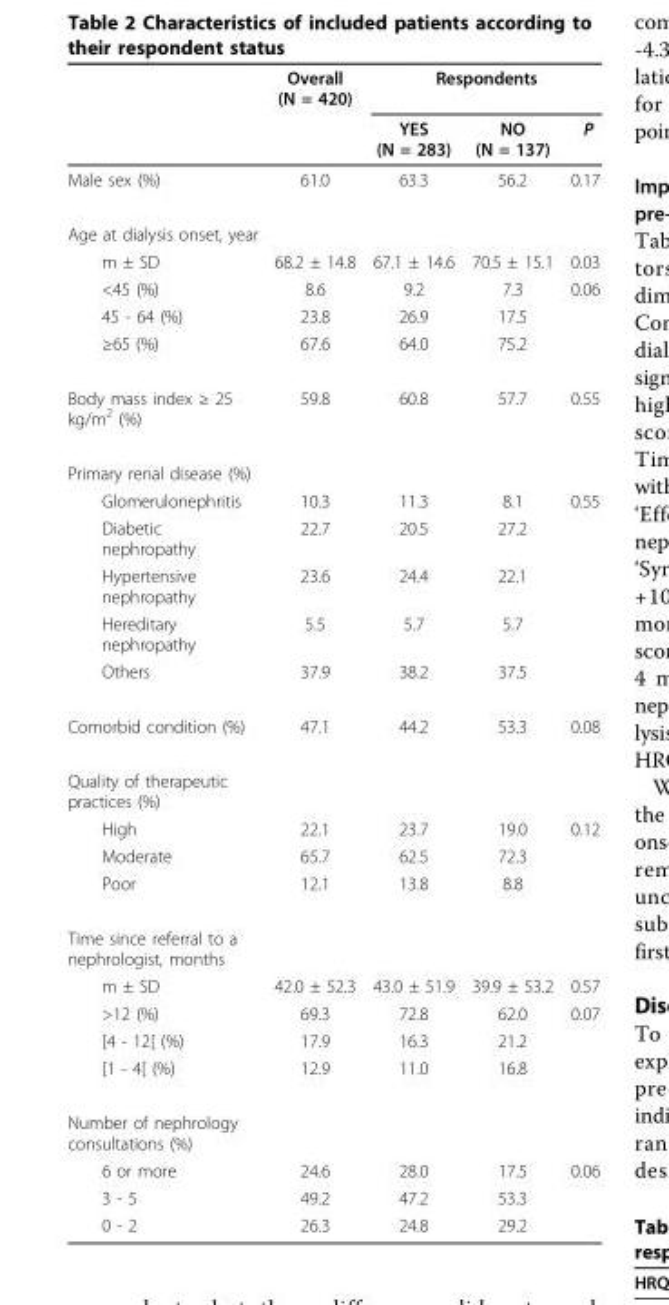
<table><thead><tr><td rowspan="2"></td><td rowspan="2">Overall (N = 420)</td><td colspan="3">Respondents</td></tr><tr><td>YES (N = 283)</td><td>NO (N = 137)</td><td>P</td></tr></thead><tbody><tr><td>Male sex (%)</td><td>61.0</td><td>63.3</td><td>56.2</td><td>0.17</td></tr><tr><td colspan="5">Age at dialysis onset, year</td></tr><tr><td>m ± SD</td><td>68.2 ± 14.8</td><td>67.1 ± 14.6</td><td>70.5 ± 15.1</td><td>0.03</td></tr><tr><td>&lt;45 (%)</td><td>8.6</td><td>9.2</td><td>7.3</td><td>0.06</td></tr><tr><td>45 - 64 (%)</td><td>23.8</td><td>26.9</td><td>17.5</td><td></td></tr><tr><td>≥65 (%)</td><td>67.6</td><td>64.0</td><td>75.2</td><td></td></tr><tr><td>Body mass index ≥ 25 kg/m<sup>2</sup> (%)</td><td>59.8</td><td>60.8</td><td>57.7</td><td>0.55</td></tr><tr><td colspan="5">Primary renal disease (%)</td></tr><tr><td>Glomerulonephritis</td><td>10.3</td><td>11.3</td><td>8.1</td><td>0.55</td></tr><tr><td>Diabetic nephropathy</td><td>22.7</td><td>20.5</td><td>27.2</td><td></td></tr><tr><td>Hypertensive nephropathy</td><td>23.6</td><td>24.4</td><td>22.1</td><td></td></tr><tr><td>Hereditary nephropathy</td><td>5.5</td><td>5.7</td><td>5.7</td><td></td></tr><tr><td>Others</td><td>37.9</td><td>38.2</td><td>37.5</td><td></td></tr><tr><td>Comorbid condition (%)</td><td>47.1</td><td>44.2</td><td>53.3</td><td>0.08</td></tr><tr><td colspan="5">Quality of therapeutic practices (%)</td></tr><tr><td>High</td><td>22.1</td><td>23.7</td><td>19.0</td><td>0.12</td></tr><tr><td>Moderate</td><td>65.7</td><td>62.5</td><td>72.3</td><td></td></tr><tr><td>Poor</td><td>12.1</td><td>13.8</td><td>8.8</td><td></td></tr><tr><td colspan="5">Time since referral to a nephrologist, months</td></tr><tr><td>m ± SD</td><td>42.0 ± 52.3</td><td>43.0 ± 51.9</td><td>39.9 ± 53.2</td><td>0.57</td></tr><tr><td>&gt;12 (%)</td><td>69.3</td><td>72.8</td><td>62.0</td><td>0.07</td></tr><tr><td>[4 - 12[ (%)</td><td>17.9</td><td>16.3</td><td>21.2</td><td></td></tr><tr><td>[1 - 4[ (%)</td><td>12.9</td><td>11.0</td><td>16.8</td><td></td></tr><tr><td colspan="5">Number of nephrology consultations (%)</td></tr><tr><td>6 or more</td><td>24.6</td><td>28.0</td><td>17.5</td><td>0.06</td></tr><tr><td>3 - 5</td><td>49.2</td><td>47.2</td><td>53.3</td><td></td></tr><tr><td>0 - 2</td><td>26.3</td><td>24.8</td><td>29.2</td><td></td></tr></tbody></table>